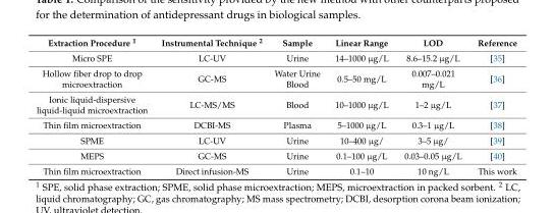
<table><thead><tr><td>Extraction Procedure <sup>1</sup></td><td>Instrumental Technique <sup>2</sup></td><td>Sample</td><td>Linear Range</td><td>LOD</td><td>Reference</td></tr></thead><tbody><tr><td>Micro SPE</td><td>LC-UV</td><td>Urine</td><td>14–1000 µg/L</td><td>8.6–15.2 µg/L</td><td>[35]</td></tr><tr><td>Hollow fiber drop to drop microextraction</td><td>GC-MS</td><td>Water Urine Blood</td><td>0.5–50 mg/L</td><td>0.007–0.021 mg/L</td><td>[36]</td></tr><tr><td>Ionic liquid-dispersive liquid-liquid microextraction</td><td>LC-MS/MS</td><td>Blood</td><td>10–1000 µg/L</td><td>1–2 µg/L</td><td>[37]</td></tr><tr><td>Thin film microextraction</td><td>DCBI-MS</td><td>Plasma</td><td>5–1000 µg/L</td><td>0.3–1 µg/L</td><td>[38]</td></tr><tr><td>SPME</td><td>LC-UV</td><td>Urine</td><td>10–400 µg/</td><td>3–5 µg/</td><td>[39]</td></tr><tr><td>MEPS</td><td>GC-MS</td><td>Urine</td><td>0.1–100 µg/L</td><td>0.03–0.05 µg/L</td><td>[40]</td></tr><tr><td>Thin film microextraction</td><td>Direct infusion-MS</td><td>Urine</td><td>0.1–10</td><td>10 ng/L</td><td>This work</td></tr></tbody></table>